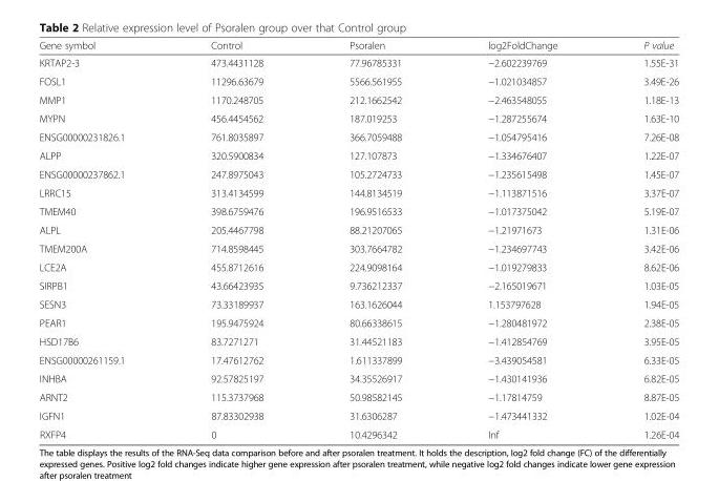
<table><thead><tr><td>Gene symbol</td><td>Control</td><td>Psoralen</td><td>log2FoldChange</td><td>P value</td></tr></thead><tbody><tr><td>KRTAP2-3</td><td>473.4431128</td><td>77.96785331</td><td>−2.602239769</td><td>1.55E-31</td></tr><tr><td>FOSL1</td><td>11296.63679</td><td>5566.561955</td><td>−1.021034857</td><td>3.49E-26</td></tr><tr><td>MMP1</td><td>1170.248705</td><td>212.1662542</td><td>−2.463548055</td><td>1.18E-13</td></tr><tr><td>MYPN</td><td>456.4454562</td><td>187.019253</td><td>−1.287255674</td><td>1.63E-10</td></tr><tr><td>ENSG00000231826.1</td><td>761.8035897</td><td>366.7059488</td><td>−1.054795416</td><td>7.26E-08</td></tr><tr><td>ALPP</td><td>320.5900834</td><td>127.107873</td><td>−1.334676407</td><td>1.22E-07</td></tr><tr><td>ENSG00000237862.1</td><td>247.8975043</td><td>105.2724733</td><td>−1.235615498</td><td>1.45E-07</td></tr><tr><td>LRRC15</td><td>313.4134599</td><td>144.8134519</td><td>−1.113871516</td><td>3.37E-07</td></tr><tr><td>TMEM40</td><td>398.6759476</td><td>196.9516533</td><td>−1.017375042</td><td>5.19E-07</td></tr><tr><td>ALPL</td><td>205.4467798</td><td>88.21207065</td><td>−1.21971673</td><td>1.31E-06</td></tr><tr><td>TMEM200A</td><td>714.8598445</td><td>303.7664782</td><td>−1.234697743</td><td>3.42E-06</td></tr><tr><td>LCE2A</td><td>455.8712616</td><td>224.9098164</td><td>−1.019279833</td><td>8.62E-06</td></tr><tr><td>SIRPB1</td><td>43.66423935</td><td>9.736212337</td><td>−2.165019671</td><td>1.03E-05</td></tr><tr><td>SESN3</td><td>73.33189937</td><td>163.1626044</td><td>1.153797628</td><td>1.94E-05</td></tr><tr><td>PEAR1</td><td>195.9475924</td><td>80.66338615</td><td>−1.280481972</td><td>2.38E-05</td></tr><tr><td>HSD17B6</td><td>83.7271271</td><td>31.44521183</td><td>−1.412854769</td><td>3.95E-05</td></tr><tr><td>ENSG00000261159.1</td><td>17.47612762</td><td>1.611337899</td><td>−3.439054581</td><td>6.33E-05</td></tr><tr><td>INHBA</td><td>92.57825197</td><td>34.35526917</td><td>−1.430141936</td><td>6.82E-05</td></tr><tr><td>ARNT2</td><td>115.3737968</td><td>50.98582145</td><td>−1.17814759</td><td>8.87E-05</td></tr><tr><td>IGFN1</td><td>87.83302938</td><td>31.6306287</td><td>−1.473441332</td><td>1.02E-04</td></tr><tr><td>RXFP4</td><td>0</td><td>10.4296342</td><td>Inf</td><td>1.26E-04</td></tr></tbody></table>